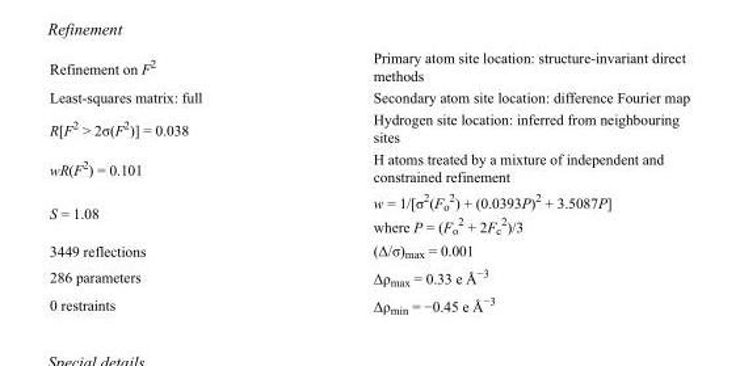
<table><tbody><tr><td>Refinement on F<sup>2</sup></td><td>Primary atom site location: structure-invariant direct methods</td></tr><tr><td>Least-squares matrix: full</td><td>Secondary atom site location: difference Fourier map</td></tr><tr><td>R[F<sup>2</sup> &gt; 2σ(F<sup>2</sup>)] = 0.038</td><td>Hydrogen site location: inferred from neighbouring sites</td></tr><tr><td>wR(F<sup>2</sup>) = 0.101</td><td>H atoms treated by a mixture of independent and constrained refinement</td></tr><tr><td>S = 1.08</td><td>w = 1/[σ<sup>2</sup>(F<sub>o</sub> <sup>2</sup>) + (0.0393P)<sup>2</sup> + 3.5087P] where P = (F<sub>o</sub> <sup>2</sup> + 2F<sub>c</sub> <sup>2</sup>)/3</td></tr><tr><td>3449 reflections</td><td>(Δ/σ)<sub>max</sub> = 0.001</td></tr><tr><td>286 parameters</td><td>Δρ<sub>max</sub> = 0.33 e Å<sup>−3</sup></td></tr><tr><td>0 restraints</td><td>Δρ<sub>min</sub> = −0.45 e Å<sup>−3</sup></td></tr></tbody></table>